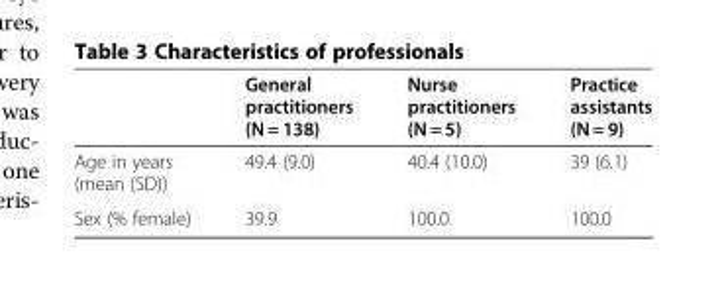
<table><thead><tr><td></td><td>General practitioners (N = 138)</td><td>Nurse practitioners (N = 5)</td><td>Practice assistants (N = 9)</td></tr></thead><tbody><tr><td>Age in years (mean (SD))</td><td>49.4 (9.0)</td><td>40.4 (10.0)</td><td>39 (6.1)</td></tr><tr><td>Sex (% female)</td><td>39.9</td><td>100.0</td><td>100.0</td></tr></tbody></table>